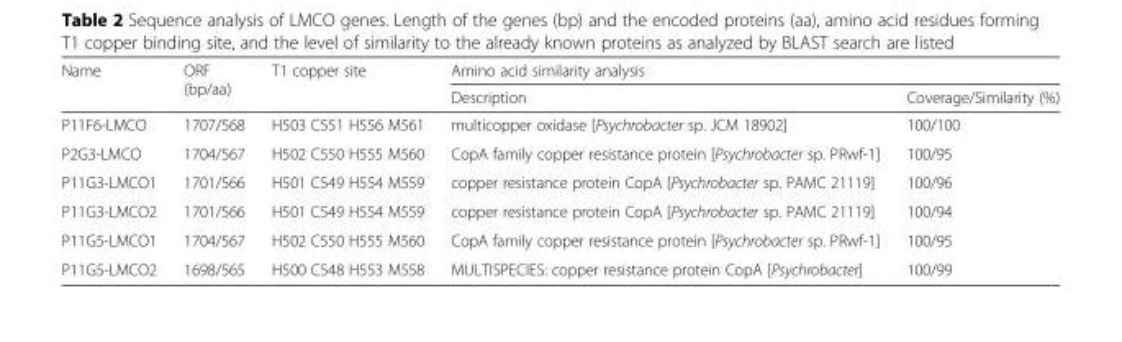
<table><thead><tr><td rowspan="2">Name</td><td rowspan="2">ORF (bp/aa)</td><td rowspan="2">T1 copper site</td><td colspan="2">Amino acid similarity analysis</td></tr><tr><td>Description</td><td>Coverage/Similarity (%)</td></tr></thead><tbody><tr><td>P11F6-LMCO</td><td>1707/568</td><td>H503 C551 H556 M561</td><td>multicopper oxidase [Psychrobacter sp. JCM 18902]</td><td>100/100</td></tr><tr><td>P2G3-LMCO</td><td>1704/567</td><td>H502 C550 H555 M560</td><td>CopA family copper resistance protein [Psychrobacter sp. PRwf-1]</td><td>100/95</td></tr><tr><td>P11G3-LMCO1</td><td>1701/566</td><td>H501 C549 H554 M559</td><td>copper resistance protein CopA [Psychrobacter sp. PAMC 21119]</td><td>100/96</td></tr><tr><td>P11G3-LMCO2</td><td>1701/566</td><td>H501 C549 H554 M559</td><td>copper resistance protein CopA [Psychrobacter sp. PAMC 21119]</td><td>100/94</td></tr><tr><td>P11G5-LMCO1</td><td>1704/567</td><td>H502 C550 H555 M560</td><td>CopA family copper resistance protein [Psychrobacter sp. PRwf-1]</td><td>100/95</td></tr><tr><td>P11G5-LMCO2</td><td>1698/565</td><td>H500 C548 H553 M558</td><td>MULTISPECIES: copper resistance protein CopA [Psychrobacter]</td><td>100/99</td></tr></tbody></table>